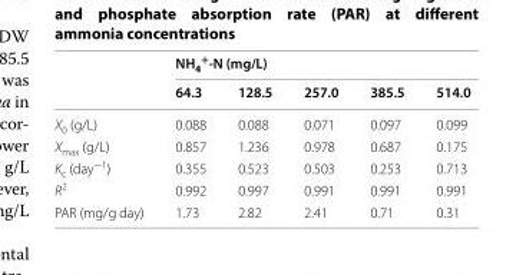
<table><thead><tr><td rowspan="2"></td><td colspan="5">NH<sub>4</sub> <sup>+</sup>-N (mg/L)</td></tr><tr><td>64.3</td><td>128.5</td><td>257.0</td><td>385.5</td><td>514.0</td></tr></thead><tbody><tr><td>X<sub>0</sub> (g/L)</td><td>0.088</td><td>0.088</td><td>0.071</td><td>0.097</td><td>0.099</td></tr><tr><td>X<sub>max</sub> (g/L)</td><td>0.857</td><td>1.236</td><td>0.978</td><td>0.687</td><td>0.175</td></tr><tr><td>K<sub>c</sub> (day<sup>−1</sup>)</td><td>0.355</td><td>0.523</td><td>0.503</td><td>0.253</td><td>0.713</td></tr><tr><td>R<sup>2</sup></td><td>0.992</td><td>0.997</td><td>0.991</td><td>0.991</td><td>0.991</td></tr><tr><td>PAR (mg/g day)</td><td>1.73</td><td>2.82</td><td>2.41</td><td>0.71</td><td>0.31</td></tr></tbody></table>